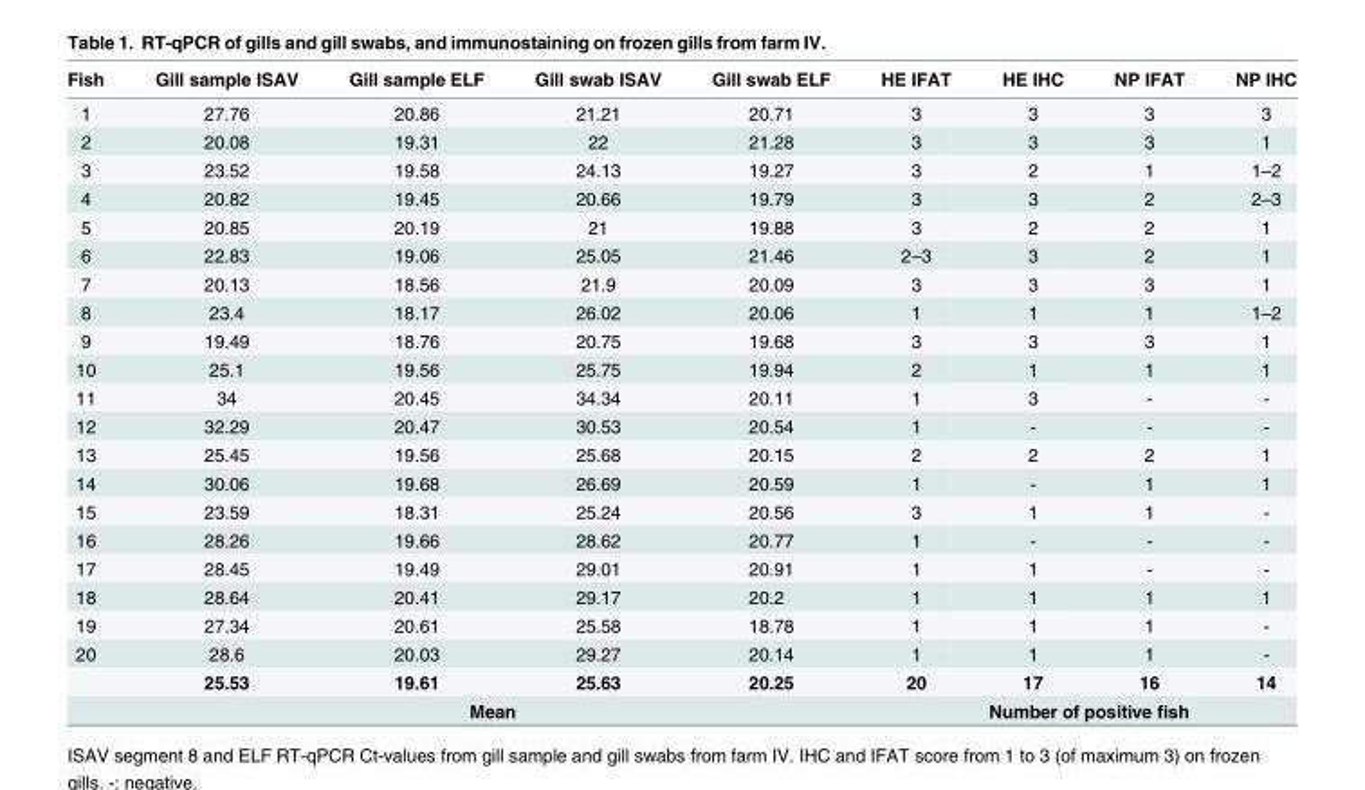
<table><thead><tr><td>Fish</td><td>Gill sample ISAV</td><td>Gill sample ELF</td><td>Gill swab ISAV</td><td>Gill swab ELF</td><td>HE IFAT</td><td>HE IHC</td><td>NP IFAT</td><td>NP IHC</td></tr></thead><tbody><tr><td>1</td><td>27.76</td><td>20.86</td><td>21.21</td><td>20.71</td><td>3</td><td>3</td><td>3</td><td>3</td></tr><tr><td>2</td><td>20.08</td><td>19.31</td><td>22</td><td>21.28</td><td>3</td><td>3</td><td>3</td><td>1</td></tr><tr><td>3</td><td>23.52</td><td>19.58</td><td>24.13</td><td>19.27</td><td>3</td><td>2</td><td>1</td><td>1–2</td></tr><tr><td>4</td><td>20.82</td><td>19.45</td><td>20.66</td><td>19.79</td><td>3</td><td>3</td><td>2</td><td>2–3</td></tr><tr><td>5</td><td>20.85</td><td>20.19</td><td>21</td><td>19.88</td><td>3</td><td>2</td><td>2</td><td>1</td></tr><tr><td>6</td><td>22.83</td><td>19.06</td><td>25.05</td><td>21.46</td><td>2–3</td><td>3</td><td>2</td><td>1</td></tr><tr><td>7</td><td>20.13</td><td>18.56</td><td>21.9</td><td>20.09</td><td>3</td><td>3</td><td>3</td><td>1</td></tr><tr><td>8</td><td>23.4</td><td>18.17</td><td>26.02</td><td>20.06</td><td>1</td><td>1</td><td>1</td><td>1–2</td></tr><tr><td>9</td><td>19.49</td><td>18.76</td><td>20.75</td><td>19.68</td><td>3</td><td>3</td><td>3</td><td>1</td></tr><tr><td>10</td><td>25.1</td><td>19.56</td><td>25.75</td><td>19.94</td><td>2</td><td>1</td><td>1</td><td>1</td></tr><tr><td>11</td><td>34</td><td>20.45</td><td>34.34</td><td>20.11</td><td>1</td><td>3</td><td>-</td><td>-</td></tr><tr><td>12</td><td>32.29</td><td>20.47</td><td>30.53</td><td>20.54</td><td>1</td><td>-</td><td>-</td><td>-</td></tr><tr><td>13</td><td>25.45</td><td>19.56</td><td>25.68</td><td>20.15</td><td>2</td><td>2</td><td>2</td><td>1</td></tr><tr><td>14</td><td>30.06</td><td>19.68</td><td>26.69</td><td>20.59</td><td>1</td><td>-</td><td>1</td><td>1</td></tr><tr><td>15</td><td>23.59</td><td>18.31</td><td>25.24</td><td>20.56</td><td>3</td><td>1</td><td>1</td><td>-</td></tr><tr><td>16</td><td>28.26</td><td>19.66</td><td>28.62</td><td>20.77</td><td>1</td><td>-</td><td>-</td><td>-</td></tr><tr><td>17</td><td>28.45</td><td>19.49</td><td>29.01</td><td>20.91</td><td>1</td><td>1</td><td>-</td><td>-</td></tr><tr><td>18</td><td>28.64</td><td>20.41</td><td>29.17</td><td>20.2</td><td>1</td><td>1</td><td>1</td><td>1</td></tr><tr><td>19</td><td>27.34</td><td>20.61</td><td>25.58</td><td>18.78</td><td>1</td><td>1</td><td>1</td><td>-</td></tr><tr><td rowspan="3">20</td><td>28.6</td><td>20.03</td><td>29.27</td><td>20.14</td><td>1</td><td>1</td><td>1</td><td>-</td></tr><tr><td>25.53</td><td>19.61</td><td>25.63</td><td>20.25</td><td>20</td><td>17</td><td>16</td><td>14</td></tr><tr><td colspan="4">Mean</td><td colspan="4">Number of positive fish</td></tr></tbody></table>